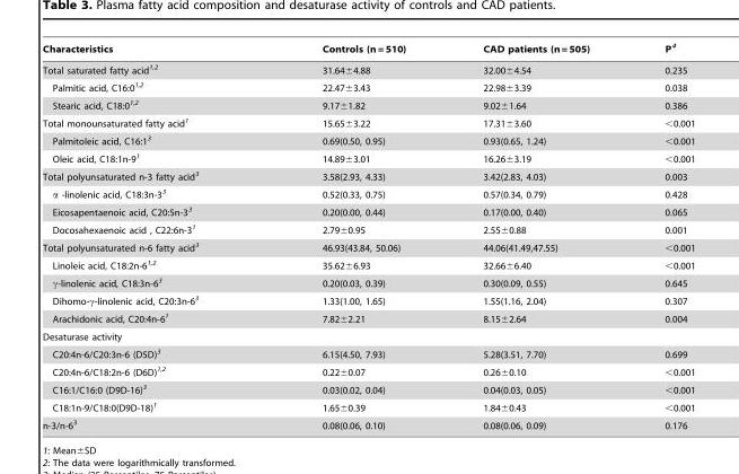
<table><thead><tr><td>Characteristics</td><td>Controls (n = 510)</td><td>CAD patients (n = 505)</td><td>P<sup>4</sup></td></tr></thead><tbody><tr><td>Total saturated fatty acid<sup>1,2</sup></td><td>31.64±4.88</td><td>32.00±4.54</td><td>0.235</td></tr><tr><td>Palmitic acid, C16:0<sup>1,2</sup></td><td>22.47±3.43</td><td>22.98±3.39</td><td>0.038</td></tr><tr><td>Stearic acid, C18:0<sup>1,2</sup></td><td>9.17±1.82</td><td>9.02±1.64</td><td>0.386</td></tr><tr><td>Total monounsaturated fatty acid<sup>1</sup></td><td>15.65±3.22</td><td>17.31±3.60</td><td>&lt;0.001</td></tr><tr><td>Palmitoleic acid, C16:1<sup>3</sup></td><td>0.69(0.50, 0.95)</td><td>0.93(0.65, 1.24)</td><td>&lt;0.001</td></tr><tr><td>Oleic acid, C18:1n-9<sup>1</sup></td><td>14.89±3.01</td><td>16.26±3.19</td><td>&lt;0.001</td></tr><tr><td>Total polyunsaturated n-3 fatty acid<sup>3</sup></td><td>3.58(2.93, 4.33)</td><td>3.42(2.83, 4.03)</td><td>0.003</td></tr><tr><td>α -linolenic acid, C18:3n-3<sup>3</sup></td><td>0.52(0.33, 0.75)</td><td>0.57(0.34, 0.79)</td><td>0.428</td></tr><tr><td>Eicosapentaenoic acid, C20:5n-3<sup>3</sup></td><td>0.20(0.00, 0.44)</td><td>0.17(0.00, 0.40)</td><td>0.065</td></tr><tr><td>Docosahexaenoic acid , C22:6n-3<sup>1</sup></td><td>2.79±0.95</td><td>2.55±0.88</td><td>0.001</td></tr><tr><td>Total polyunsaturated n-6 fatty acid<sup>3</sup></td><td>46.93(43.84, 50.06)</td><td>44.06(41.49,47.55)</td><td>&lt;0.001</td></tr><tr><td>Linoleic acid, C18:2n-6<sup>1,2</sup></td><td>35.62±6.93</td><td>32.66±6.40</td><td>&lt;0.001</td></tr><tr><td>γ-linolenic acid, C18:3n-6<sup>3</sup></td><td>0.20(0.03, 0.39)</td><td>0.30(0.09, 0.55)</td><td>0.645</td></tr><tr><td>Dihomo-γ-linolenic acid, C20:3n-6<sup>3</sup></td><td>1.33(1.00, 1.65)</td><td>1.55(1.16, 2.04)</td><td>0.307</td></tr><tr><td>Arachidonic acid, C20:4n-6<sup>1</sup></td><td>7.82±2.21</td><td>8.15±2.64</td><td>0.004</td></tr><tr><td colspan="4">Desaturase activity</td></tr><tr><td>C20:4n-6/C20:3n-6 (D5D)<sup>3</sup></td><td>6.15(4.50, 7.93)</td><td>5.28(3.51, 7.70)</td><td>0.699</td></tr><tr><td>C20:4n-6/C18:2n-6 (D6D)<sup>1,2</sup></td><td>0.22±0.07</td><td>0.26±0.10</td><td>&lt;0.001</td></tr><tr><td>C16:1/C16:0 (D9D-16)<sup>3</sup></td><td>0.03(0.02, 0.04)</td><td>0.04(0.03, 0.05)</td><td>&lt;0.001</td></tr><tr><td>C18:1n-9/C18:0(D9D-18)<sup>1</sup></td><td>1.65±0.39</td><td>1.84±0.43</td><td>&lt;0.001</td></tr><tr><td>n-3/n-6<sup>3</sup></td><td>0.08(0.06, 0.10)</td><td>0.08(0.06, 0.09)</td><td>0.176</td></tr></tbody></table>